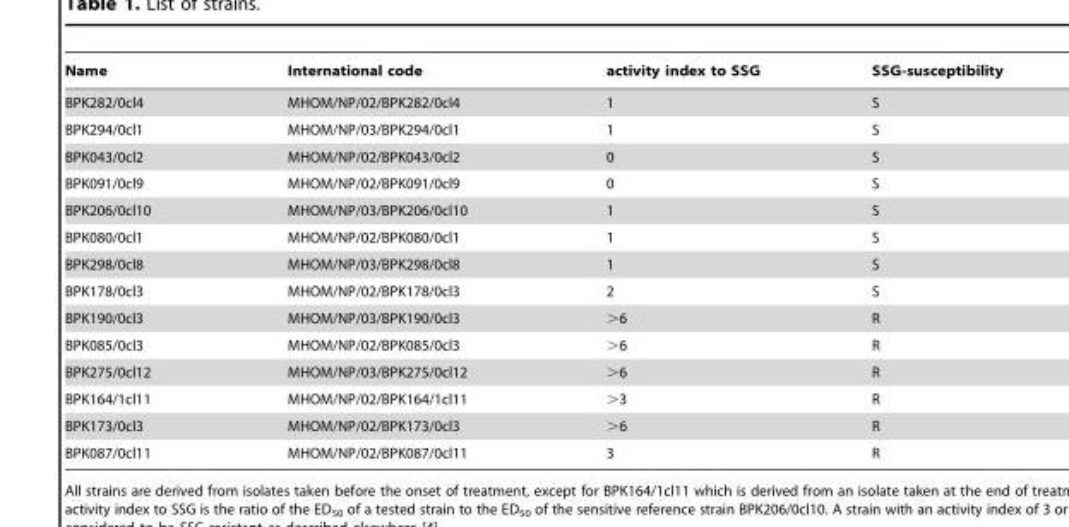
<table><thead><tr><td>Name</td><td>International code</td><td>activity index to SSG</td><td>SSG-susceptibility</td></tr></thead><tbody><tr><td>BPK282/0cl4</td><td>MHOM/NP/02/BPK282/0cl4</td><td>1</td><td>S</td></tr><tr><td>BPK294/0cl1</td><td>MHOM/NP/03/BPK294/0cl1</td><td>1</td><td>S</td></tr><tr><td>BPK043/0cl2</td><td>MHOM/NP/02/BPK043/0cl2</td><td>0</td><td>S</td></tr><tr><td>BPK091/0cl9</td><td>MHOM/NP/02/BPK091/0cl9</td><td>0</td><td>S</td></tr><tr><td>BPK206/0cl10</td><td>MHOM/NP/03/BPK206/0cl10</td><td>1</td><td>S</td></tr><tr><td>BPK080/0cl1</td><td>MHOM/NP/02/BPK080/0cl1</td><td>1</td><td>S</td></tr><tr><td>BPK298/0cl8</td><td>MHOM/NP/03/BPK298/0cl8</td><td>1</td><td>S</td></tr><tr><td>BPK178/0cl3</td><td>MHOM/NP/02/BPK178/0cl3</td><td>2</td><td>S</td></tr><tr><td>BPK190/0cl3</td><td>MHOM/NP/03/BPK190/0cl3</td><td>&gt;6</td><td>R</td></tr><tr><td>BPK085/0cl3</td><td>MHOM/NP/02/BPK085/0cl3</td><td>&gt;6</td><td>R</td></tr><tr><td>BPK275/0cl12</td><td>MHOM/NP/03/BPK275/0cl12</td><td>&gt;6</td><td>R</td></tr><tr><td>BPK164/1cl11</td><td>MHOM/NP/02/BPK164/1cl11</td><td>&gt;3</td><td>R</td></tr><tr><td>BPK173/0cl3</td><td>MHOM/NP/02/BPK173/0cl3</td><td>&gt;6</td><td>R</td></tr><tr><td>BPK087/0cl11</td><td>MHOM/NP/02/BPK087/0cl11</td><td>3</td><td>R</td></tr></tbody></table>